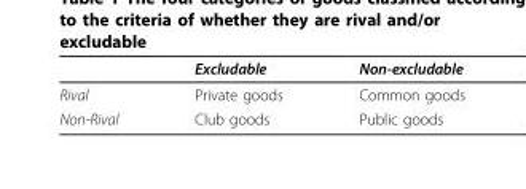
<table><thead><tr><td></td><td>Excludable</td><td>Non-excludable</td></tr></thead><tbody><tr><td>Rival</td><td>Private goods</td><td>Common goods</td></tr><tr><td>Non-Rival</td><td>Club goods</td><td>Public goods</td></tr></tbody></table>